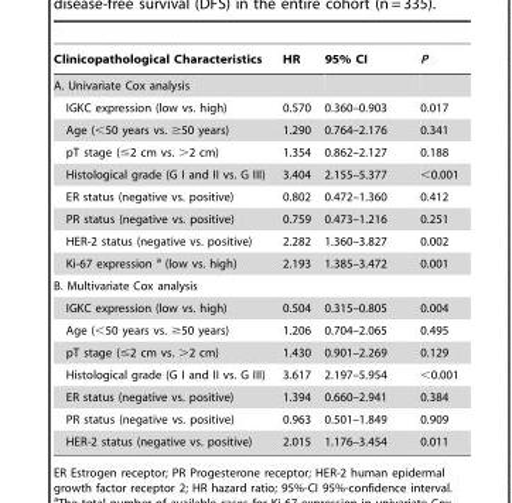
<table><thead><tr><td>Clinicopathological Characteristics</td><td>HR</td><td>95% CI</td><td>P</td></tr></thead><tbody><tr><td colspan="4">A. Univariate Cox analysis</td></tr><tr><td>IGKC expression (low vs. high)</td><td>0.570</td><td>0.360–0.903</td><td>0.017</td></tr><tr><td>Age (&lt;50 years vs. ≥50 years)</td><td>1.290</td><td>0.764–2.176</td><td>0.341</td></tr><tr><td>pT stage (≤2 cm vs. &gt;2 cm)</td><td>1.354</td><td>0.862–2.127</td><td>0.188</td></tr><tr><td>Histological grade (G I and II vs. G III)</td><td>3.404</td><td>2.155–5.377</td><td>&lt;0.001</td></tr><tr><td>ER status (negative vs. positive)</td><td>0.802</td><td>0.472–1.360</td><td>0.412</td></tr><tr><td>PR status (negative vs. positive)</td><td>0.759</td><td>0.473–1.216</td><td>0.251</td></tr><tr><td>HER-2 status (negative vs. positive)</td><td>2.282</td><td>1.360–3.827</td><td>0.002</td></tr><tr><td>Ki-67 expression a (low vs. high)</td><td>2.193</td><td>1.385–3.472</td><td>0.001</td></tr><tr><td colspan="4">B. Multivariate Cox analysis</td></tr><tr><td>IGKC expression (low vs. high)</td><td>0.504</td><td>0.315–0.805</td><td>0.004</td></tr><tr><td>Age (&lt;50 years vs. ≥50 years)</td><td>1.206</td><td>0.704–2.065</td><td>0.495</td></tr><tr><td>pT stage (≤2 cm vs. &gt;2 cm)</td><td>1.430</td><td>0.901–2.269</td><td>0.129</td></tr><tr><td>Histological grade (G I and II vs. G III)</td><td>3.617</td><td>2.197–5.954</td><td>&lt;0.001</td></tr><tr><td>ER status (negative vs. positive)</td><td>1.394</td><td>0.660–2.941</td><td>0.384</td></tr><tr><td>PR status (negative vs. positive)</td><td>0.963</td><td>0.501–1.849</td><td>0.909</td></tr><tr><td>HER-2 status (negative vs. positive)</td><td>2.015</td><td>1.176–3.454</td><td>0.011</td></tr></tbody></table>